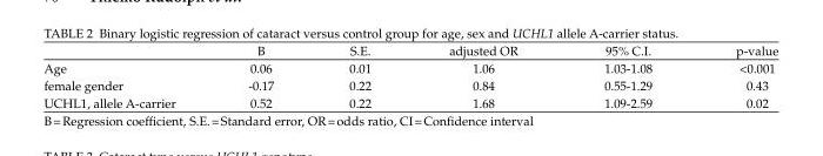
<table><thead><tr><td></td><td>B</td><td>S.E.</td><td>adjusted OR</td><td>95% C.I.</td><td>p-value</td></tr></thead><tbody><tr><td>Age</td><td>0.06</td><td>0.01</td><td>1.06</td><td>1.03-1.08</td><td>&lt;0.001</td></tr><tr><td>female gender</td><td>-0.17</td><td>0.22</td><td>0.84</td><td>0.55-1.29</td><td>0.43</td></tr><tr><td>UCHL1, allele A-carrier</td><td>0.52</td><td>0.22</td><td>1.68</td><td>1.09-2.59</td><td>0.02</td></tr></tbody></table>